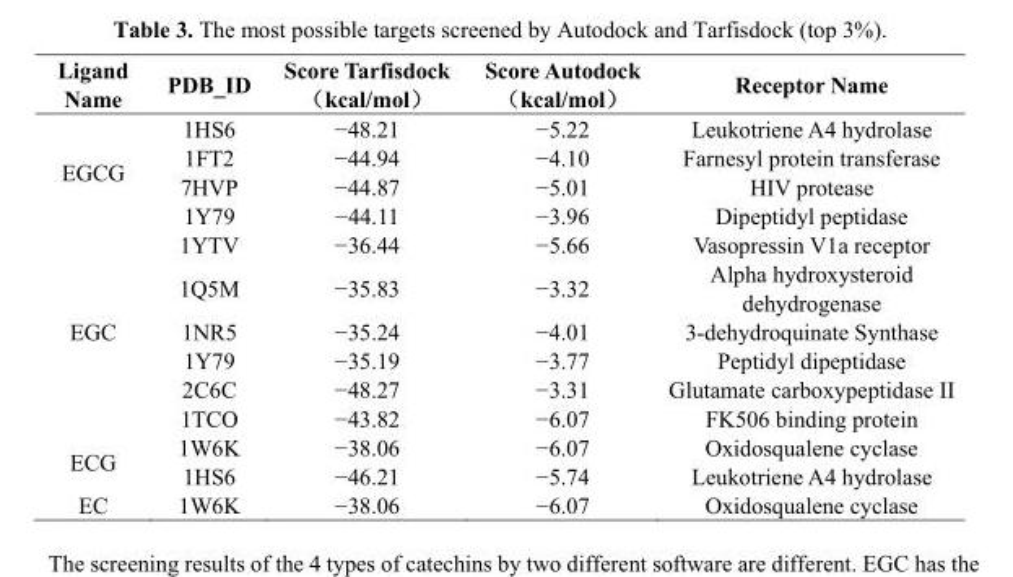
<table><thead><tr><td>Ligand Name</td><td>PDB_ID</td><td>Score Tarfisdock （kcal/mol）</td><td>Score Autodock （kcal/mol）</td><td>Receptor Name</td></tr></thead><tbody><tr><td rowspan="4">EGCG</td><td>1HS6</td><td>−48.21</td><td>−5.22</td><td>Leukotriene A4 hydrolase</td></tr><tr><td>1FT2</td><td>−44.94</td><td>−4.10</td><td>Farnesyl protein transferase</td></tr><tr><td>7HVP</td><td>−44.87</td><td>−5.01</td><td>HIV protease</td></tr><tr><td>1Y79</td><td>−44.11</td><td>−3.96</td><td>Dipeptidyl peptidase</td></tr><tr><td rowspan="6">EGC</td><td>1YTV</td><td>−36.44</td><td>−5.66</td><td>Vasopressin V1a receptor</td></tr><tr><td>1Q5M</td><td>−35.83</td><td>−3.32</td><td>Alpha hydroxysteroid dehydrogenase</td></tr><tr><td>1NR5</td><td>−35.24</td><td>−4.01</td><td>3-dehydroquinate Synthase</td></tr><tr><td>1Y79</td><td>−35.19</td><td>−3.77</td><td>Peptidyl dipeptidase</td></tr><tr><td>2C6C</td><td>−48.27</td><td>−3.31</td><td>Glutamate carboxypeptidase II</td></tr><tr><td>1TCO</td><td>−43.82</td><td>−6.07</td><td>FK506 binding protein</td></tr><tr><td rowspan="2">ECG</td><td>1W6K</td><td>−38.06</td><td>−6.07</td><td>Oxidosqualene cyclase</td></tr><tr><td>1HS6</td><td>−46.21</td><td>−5.74</td><td>Leukotriene A4 hydrolase</td></tr><tr><td>EC</td><td>1W6K</td><td>−38.06</td><td>−6.07</td><td>Oxidosqualene cyclase</td></tr></tbody></table>